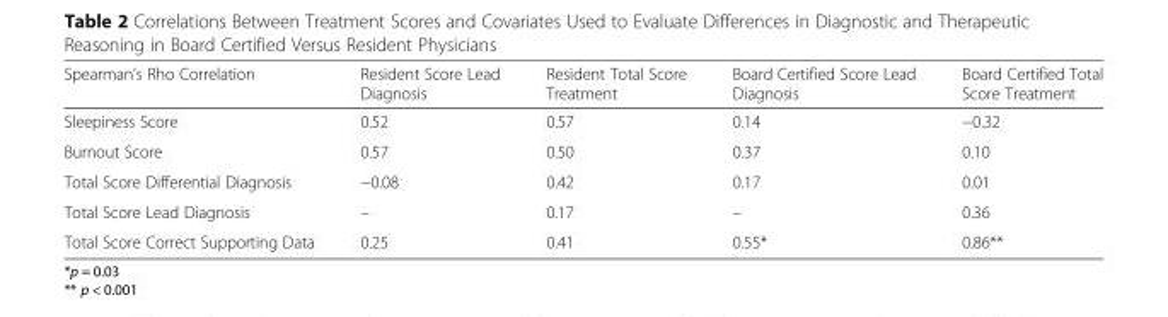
<table><thead><tr><td>Spearman’s Rho Correlation</td><td>Resident Score Lead Diagnosis</td><td>Resident Total Score Treatment</td><td>Board Certified Score Lead Diagnosis</td><td>Board Certified Total Score Treatment</td></tr></thead><tbody><tr><td>Sleepiness Score</td><td>0.52</td><td>0.57</td><td>0.14</td><td>−0.32</td></tr><tr><td>Burnout Score</td><td>0.57</td><td>0.50</td><td>0.37</td><td>0.10</td></tr><tr><td>Total Score Differential Diagnosis</td><td>−0.08</td><td>0.42</td><td>0.17</td><td>0.01</td></tr><tr><td>Total Score Lead Diagnosis</td><td>–</td><td>0.17</td><td>–</td><td>0.36</td></tr><tr><td>Total Score Correct Supporting Data</td><td>0.25</td><td>0.41</td><td>0.55*</td><td>0.86**</td></tr></tbody></table>